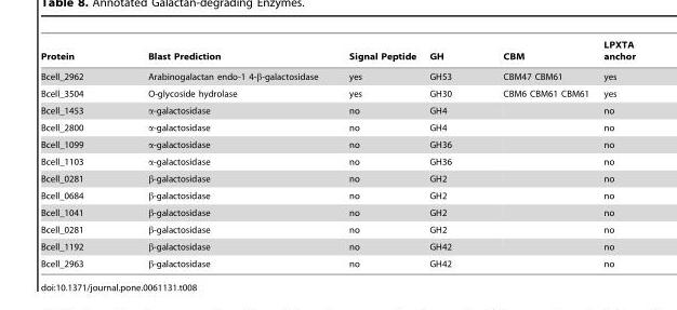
<table><thead><tr><td>Protein</td><td>Blast Prediction</td><td>Signal Peptide</td><td>GH</td><td>CBM</td><td>LPXTA anchor</td></tr></thead><tbody><tr><td>Bcell_2962</td><td>Arabinogalactan endo-1 4-β-galactosidase</td><td>yes</td><td>GH53</td><td>CBM47 CBM61</td><td>yes</td></tr><tr><td>Bcell_3504</td><td>O-glycoside hydrolase</td><td>yes</td><td>GH30</td><td>CBM6 CBM61 CBM61</td><td>yes</td></tr><tr><td>Bcell_1453</td><td>α-galactosidase</td><td>no</td><td>GH4</td><td></td><td>no</td></tr><tr><td>Bcell_2800</td><td>α-galactosidase</td><td>no</td><td>GH4</td><td></td><td>no</td></tr><tr><td>Bcell_1099</td><td>α-galactosidase</td><td>no</td><td>GH36</td><td></td><td>no</td></tr><tr><td>Bcell_1103</td><td>α-galactosidase</td><td>no</td><td>GH36</td><td></td><td>no</td></tr><tr><td>Bcell_0281</td><td>β-galactosidase</td><td>no</td><td>GH2</td><td></td><td>no</td></tr><tr><td>Bcell_0684</td><td>β-galactosidase</td><td>no</td><td>GH2</td><td></td><td>no</td></tr><tr><td>Bcell_1041</td><td>β-galactosidase</td><td>no</td><td>GH2</td><td></td><td>no</td></tr><tr><td>Bcell_0281</td><td>β-galactosidase</td><td>no</td><td>GH2</td><td></td><td>no</td></tr><tr><td>Bcell_1192</td><td>β-galactosidase</td><td>no</td><td>GH42</td><td></td><td>no</td></tr><tr><td>Bcell_2963</td><td>β-galactosidase</td><td>no</td><td>GH42</td><td></td><td>no</td></tr></tbody></table>